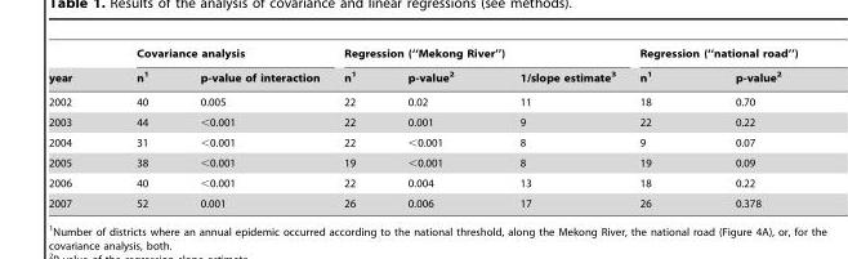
<table><thead><tr><td rowspan="2">year</td><td colspan="2">Covariance analysis</td><td colspan="3">Regression (‘‘Mekong River’’)</td><td colspan="2">Regression (‘‘national road’’)</td></tr><tr><td>n<sup>1</sup></td><td>p-value of interaction</td><td>n<sup>1</sup></td><td>p-value<sup>2</sup></td><td>1/slope estimate<sup>3</sup></td><td>n<sup>1</sup></td><td>p-value<sup>2</sup></td></tr></thead><tbody><tr><td>2002</td><td>40</td><td>0.005</td><td>22</td><td>0.02</td><td>11</td><td>18</td><td>0.70</td></tr><tr><td>2003</td><td>44</td><td>&lt;0.001</td><td>22</td><td>0.001</td><td>9</td><td>22</td><td>0.22</td></tr><tr><td>2004</td><td>31</td><td>&lt;0.001</td><td>22</td><td>&lt;0.001</td><td>8</td><td>9</td><td>0.07</td></tr><tr><td>2005</td><td>38</td><td>&lt;0.001</td><td>19</td><td>&lt;0.001</td><td>8</td><td>19</td><td>0.09</td></tr><tr><td>2006</td><td>40</td><td>&lt;0.001</td><td>22</td><td>0.004</td><td>13</td><td>18</td><td>0.22</td></tr><tr><td>2007</td><td>52</td><td>0.001</td><td>26</td><td>0.006</td><td>17</td><td>26</td><td>0.378</td></tr></tbody></table>